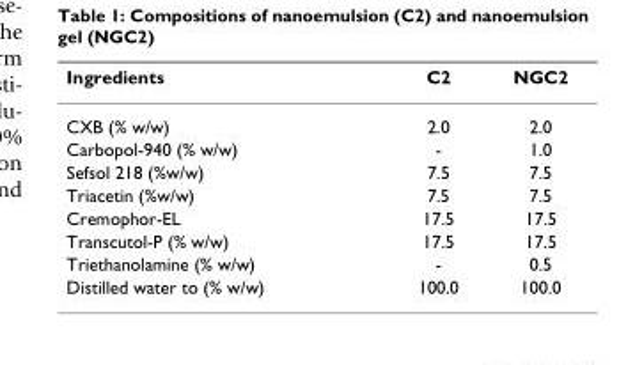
<table><thead><tr><td>Ingredients</td><td>C2</td><td>NGC2</td></tr></thead><tbody><tr><td>CXB (% w/w)</td><td>2.0</td><td>2.0</td></tr><tr><td>Carbopol-940 (% w/w)</td><td>-</td><td>1.0</td></tr><tr><td>Sefsol 218 (%w/w)</td><td>7.5</td><td>7.5</td></tr><tr><td>Triacetin (%w/w)</td><td>7.5</td><td>7.5</td></tr><tr><td>Cremophor-EL</td><td>17.5</td><td>17.5</td></tr><tr><td>Transcutol-P (% w/w)</td><td>17.5</td><td>17.5</td></tr><tr><td>Triethanolamine (% w/w)</td><td>-</td><td>0.5</td></tr><tr><td>Distilled water to (% w/w)</td><td>100.0</td><td>100.0</td></tr></tbody></table>